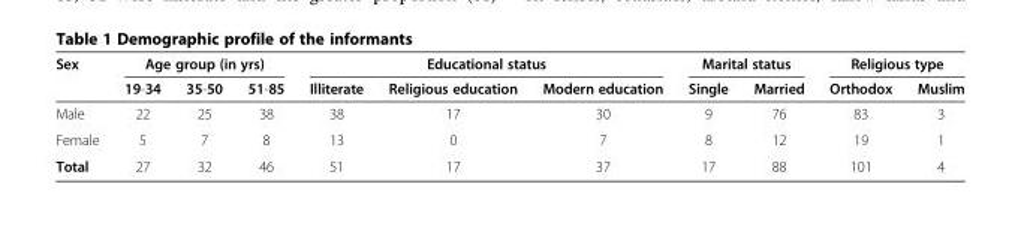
<table><thead><tr><td rowspan="2">Sex</td><td colspan="3">Age group (in yrs)</td><td colspan="3">Educational status</td><td colspan="2">Marital status</td><td colspan="2">Religious type</td></tr><tr><td>19-34</td><td>35-50</td><td>51-85</td><td>Illiterate</td><td>Religious education</td><td>Modern education</td><td>Single</td><td>Married</td><td>Orthodox</td><td>Muslim</td></tr></thead><tbody><tr><td>Male</td><td>22</td><td>25</td><td>38</td><td>38</td><td>17</td><td>30</td><td>9</td><td>76</td><td>83</td><td>3</td></tr><tr><td>Female</td><td>5</td><td>7</td><td>8</td><td>13</td><td>0</td><td>7</td><td>8</td><td>12</td><td>19</td><td>1</td></tr><tr><td>Total</td><td>27</td><td>32</td><td>46</td><td>51</td><td>17</td><td>37</td><td>17</td><td>88</td><td>101</td><td>4</td></tr></tbody></table>